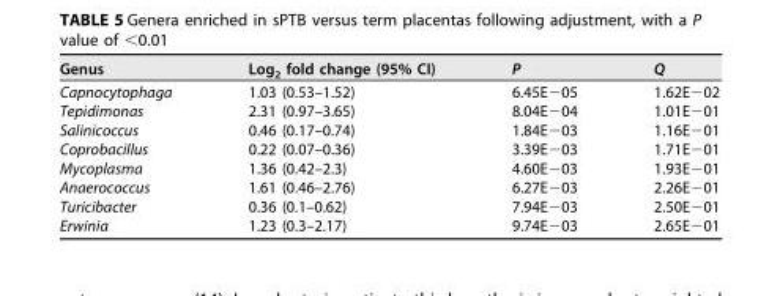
<table><thead><tr><td>Genus</td><td>Log<sub>2</sub> fold change (95% CI)</td><td>P</td><td>Q</td></tr></thead><tbody><tr><td>Capnocytophaga</td><td>1.03 (0.53–1.52)</td><td>6.45E−05</td><td>1.62E−02</td></tr><tr><td>Tepidimonas</td><td>2.31 (0.97–3.65)</td><td>8.04E−04</td><td>1.01E−01</td></tr><tr><td>Salinicoccus</td><td>0.46 (0.17–0.74)</td><td>1.84E−03</td><td>1.16E−01</td></tr><tr><td>Coprobacillus</td><td>0.22 (0.07–0.36)</td><td>3.39E−03</td><td>1.71E−01</td></tr><tr><td>Mycoplasma</td><td>1.36 (0.42–2.3)</td><td>4.60E−03</td><td>1.93E−01</td></tr><tr><td>Anaerococcus</td><td>1.61 (0.46–2.76)</td><td>6.27E−03</td><td>2.26E−01</td></tr><tr><td>Turicibacter</td><td>0.36 (0.1–0.62)</td><td>7.94E−03</td><td>2.50E−01</td></tr><tr><td>Erwinia</td><td>1.23 (0.3–2.17)</td><td>9.74E−03</td><td>2.65E−01</td></tr></tbody></table>